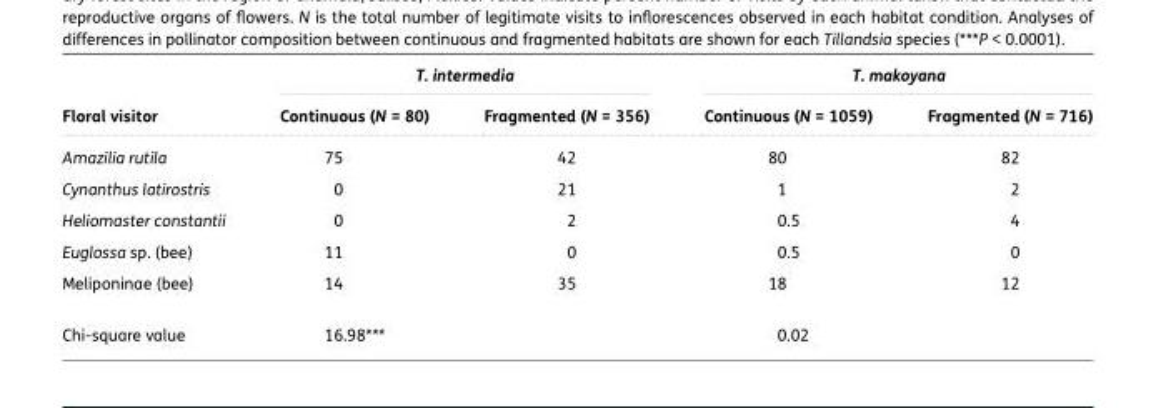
<table><thead><tr><td rowspan="2">Floral visitor</td><td colspan="2">T. intermedia</td><td colspan="2">T. makoyana</td></tr><tr><td>Continuous (N = 80)</td><td>Fragmented (N = 356)</td><td>Continuous (N = 1059)</td><td>Fragmented (N = 716)</td></tr></thead><tbody><tr><td>Amazilia rutila</td><td>75</td><td>42</td><td>80</td><td>82</td></tr><tr><td>Cynanthus latirostris</td><td>0</td><td>21</td><td>1</td><td>2</td></tr><tr><td>Heliomaster constantii</td><td>0</td><td>2</td><td>0.5</td><td>4</td></tr><tr><td>Euglossa sp. (bee)</td><td>11</td><td>0</td><td>0.5</td><td>0</td></tr><tr><td>Meliponinae (bee)</td><td>14</td><td>35</td><td>18</td><td>12</td></tr><tr><td>Chi-square value</td><td colspan="2">16.98***</td><td colspan="2">0.02</td></tr></tbody></table>